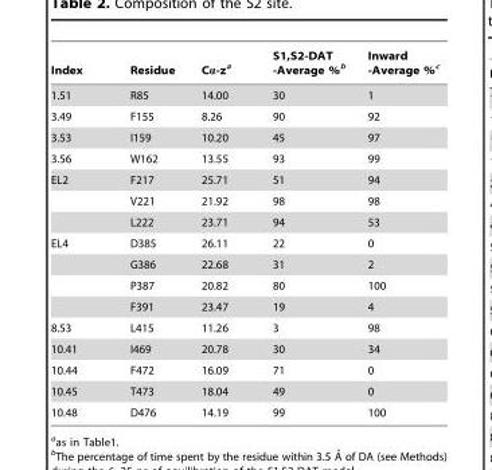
<table><thead><tr><td>Index</td><td>Residue</td><td>Cα-z<sup>a</sup></td><td>S1,S2-DAT -Average %<sup>b</sup></td><td>Inward -Average %<sup>c</sup></td></tr></thead><tbody><tr><td>1.51</td><td>R85</td><td>14.00</td><td>30</td><td>1</td></tr><tr><td>3.49</td><td>F155</td><td>8.26</td><td>90</td><td>92</td></tr><tr><td>3.53</td><td>I159</td><td>10.20</td><td>45</td><td>97</td></tr><tr><td>3.56</td><td>W162</td><td>13.55</td><td>93</td><td>99</td></tr><tr><td rowspan="3">EL2</td><td>F217</td><td>25.71</td><td>51</td><td>94</td></tr><tr><td>V221</td><td>21.92</td><td>98</td><td>98</td></tr><tr><td>L222</td><td>23.71</td><td>94</td><td>53</td></tr><tr><td rowspan="4">EL4</td><td>D385</td><td>26.11</td><td>22</td><td>0</td></tr><tr><td>G386</td><td>22.68</td><td>31</td><td>2</td></tr><tr><td>P387</td><td>20.82</td><td>80</td><td>100</td></tr><tr><td>F391</td><td>23.47</td><td>19</td><td>4</td></tr><tr><td>8.53</td><td>L415</td><td>11.26</td><td>3</td><td>98</td></tr><tr><td>10.41</td><td>I469</td><td>20.78</td><td>30</td><td>34</td></tr><tr><td>10.44</td><td>F472</td><td>16.09</td><td>71</td><td>0</td></tr><tr><td>10.45</td><td>T473</td><td>18.04</td><td>49</td><td>0</td></tr><tr><td>10.48</td><td>D476</td><td>14.19</td><td>99</td><td>100</td></tr></tbody></table>